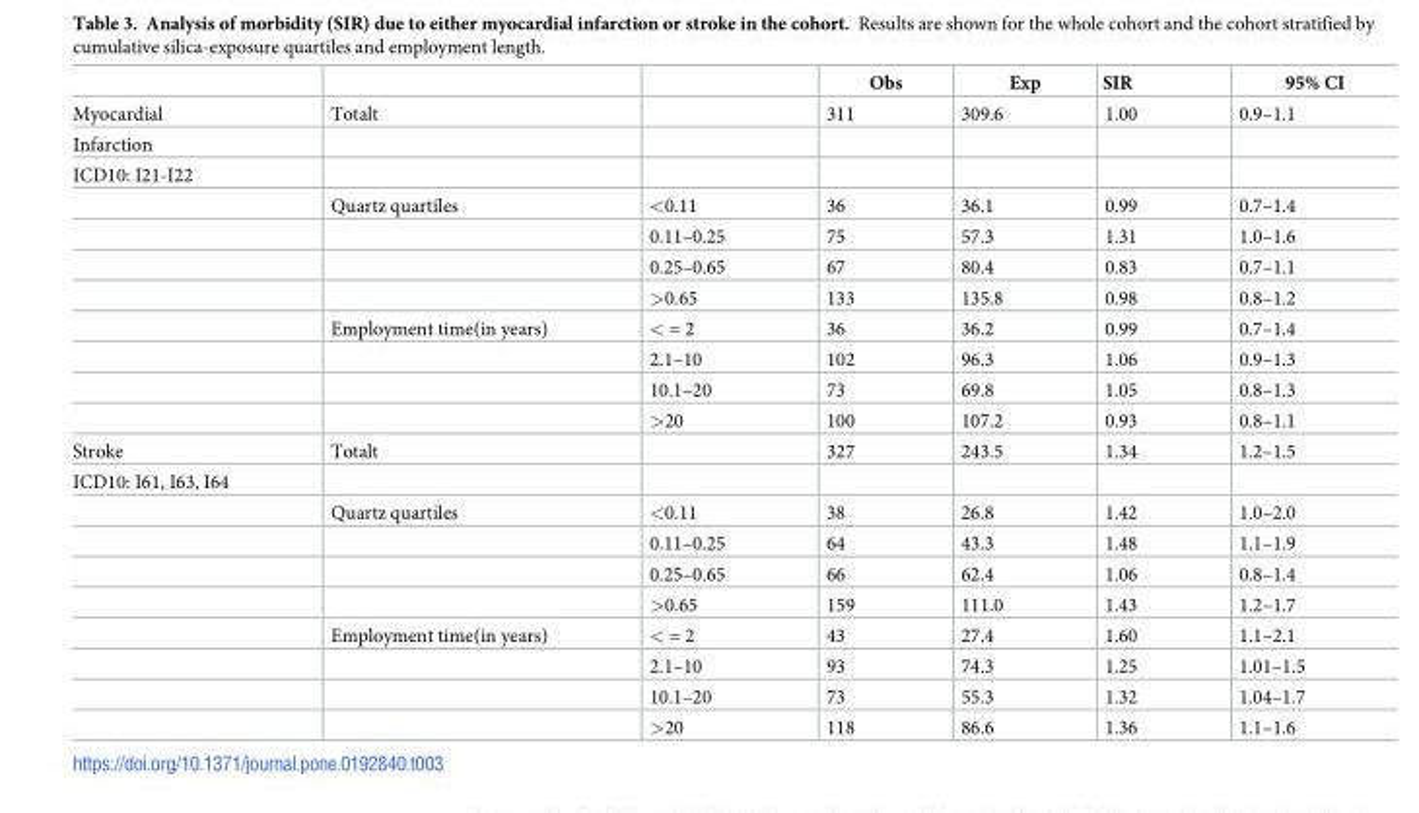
<table><thead><tr><td></td><td></td><td></td><td>Obs</td><td>Exp</td><td>SIR</td><td>95% CI</td></tr></thead><tbody><tr><td>Myocardial</td><td>Totalt</td><td></td><td>311</td><td>309.6</td><td>1.00</td><td>0.9–1.1</td></tr><tr><td colspan="7">Infarction</td></tr><tr><td colspan="7">ICD10: I21-I22</td></tr><tr><td></td><td>Quartz quartiles</td><td>&lt;0.11</td><td>36</td><td>36.1</td><td>0.99</td><td>0.7–1.4</td></tr><tr><td></td><td></td><td>0.11–0.25</td><td>75</td><td>57.3</td><td>1.31</td><td>1.0–1.6</td></tr><tr><td></td><td></td><td>0.25–0.65</td><td>67</td><td>80.4</td><td>0.83</td><td>0.7–1.1</td></tr><tr><td></td><td></td><td>&gt;0.65</td><td>133</td><td>135.8</td><td>0.98</td><td>0.8–1.2</td></tr><tr><td></td><td>Employment time(in years)</td><td>&lt; = 2</td><td>36</td><td>36.2</td><td>0.99</td><td>0.7–1.4</td></tr><tr><td></td><td></td><td>2.1–10</td><td>102</td><td>96.3</td><td>1.06</td><td>0.9–1.3</td></tr><tr><td></td><td></td><td>10.1–20</td><td>73</td><td>69.8</td><td>1.05</td><td>0.8–1.3</td></tr><tr><td></td><td></td><td>&gt;20</td><td>100</td><td>107.2</td><td>0.93</td><td>0.8–1.1</td></tr><tr><td>Stroke</td><td>Totalt</td><td></td><td>327</td><td>243.5</td><td>1.34</td><td>1.2–1.5</td></tr><tr><td colspan="7">ICD10: I61, I63, I64</td></tr><tr><td></td><td>Quartz quartiles</td><td>&lt;0.11</td><td>38</td><td>26.8</td><td>1.42</td><td>1.0–2.0</td></tr><tr><td></td><td></td><td>0.11–0.25</td><td>64</td><td>43.3</td><td>1.48</td><td>1.1–1.9</td></tr><tr><td></td><td></td><td>0.25–0.65</td><td>66</td><td>62.4</td><td>1.06</td><td>0.8–1.4</td></tr><tr><td></td><td></td><td>&gt;0.65</td><td>159</td><td>111.0</td><td>1.43</td><td>1.2–1.7</td></tr><tr><td></td><td>Employment time(in years)</td><td>&lt; = 2</td><td>43</td><td>27.4</td><td>1.60</td><td>1.1–2.1</td></tr><tr><td></td><td></td><td>2.1–10</td><td>93</td><td>74.3</td><td>1.25</td><td>1.01–1.5</td></tr><tr><td></td><td></td><td>10.1–20</td><td>73</td><td>55.3</td><td>1.32</td><td>1.04–1.7</td></tr><tr><td></td><td></td><td>&gt;20</td><td>118</td><td>86.6</td><td>1.36</td><td>1.1–1.6</td></tr></tbody></table>